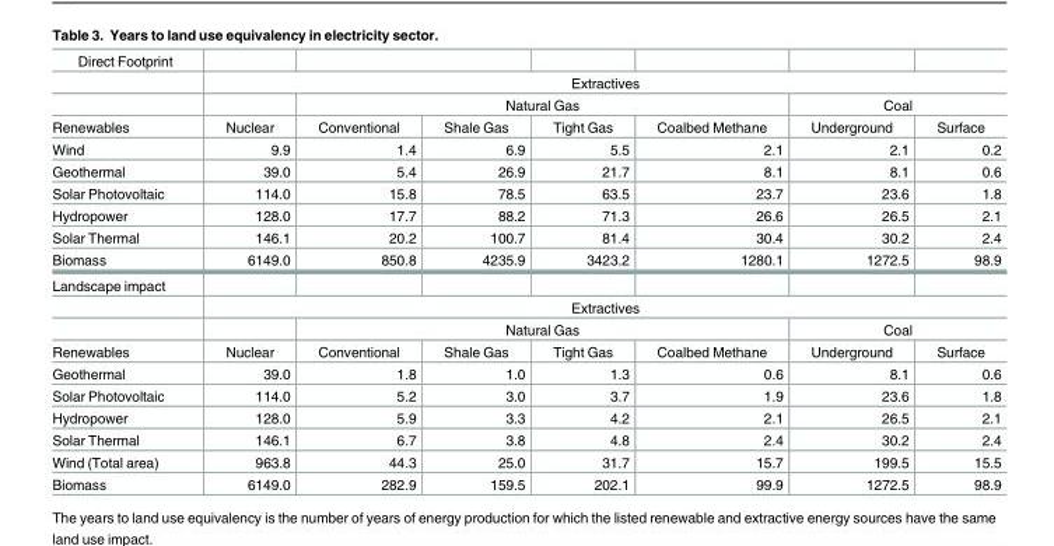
<table><tbody><tr><td colspan="8">Direct Footprint</td></tr><tr><td></td><td colspan="7">Extractives</td></tr><tr><td></td><td></td><td colspan="4">Natural Gas</td><td colspan="2">Coal</td></tr><tr><td>Renewables</td><td>Nuclear</td><td>Conventional</td><td>Shale Gas</td><td>Tight Gas</td><td>Coalbed Methane</td><td>Underground</td><td>Surface</td></tr><tr><td>Wind</td><td>9.9</td><td>1.4</td><td>6.9</td><td>5.5</td><td>2.1</td><td>2.1</td><td>0.2</td></tr><tr><td>Geothermal</td><td>39.0</td><td>5.4</td><td>26.9</td><td>21.7</td><td>8.1</td><td>8.1</td><td>0.6</td></tr><tr><td>Solar Photovoltaic</td><td>114.0</td><td>15.8</td><td>78.5</td><td>63.5</td><td>23.7</td><td>23.6</td><td>1.8</td></tr><tr><td>Hydropower</td><td>128.0</td><td>17.7</td><td>88.2</td><td>71.3</td><td>26.6</td><td>26.5</td><td>2.1</td></tr><tr><td>Solar Thermal</td><td>146.1</td><td>20.2</td><td>100.7</td><td>81.4</td><td>30.4</td><td>30.2</td><td>2.4</td></tr><tr><td>Biomass</td><td>6149.0</td><td>850.8</td><td>4235.9</td><td>3423.2</td><td>1280.1</td><td>1272.5</td><td>98.9</td></tr><tr><td colspan="8">Landscape impact</td></tr><tr><td></td><td colspan="7">Extractives</td></tr><tr><td></td><td></td><td colspan="4">Natural Gas</td><td colspan="2">Coal</td></tr><tr><td>Renewables</td><td>Nuclear</td><td>Conventional</td><td>Shale Gas</td><td>Tight Gas</td><td>Coalbed Methane</td><td>Underground</td><td>Surface</td></tr><tr><td>Geothermal</td><td>39.0</td><td>1.8</td><td>1.0</td><td>1.3</td><td>0.6</td><td>8.1</td><td>0.6</td></tr><tr><td>Solar Photovoltaic</td><td>114.0</td><td>5.2</td><td>3.0</td><td>3.7</td><td>1.9</td><td>23.6</td><td>1.8</td></tr><tr><td>Hydropower</td><td>128.0</td><td>5.9</td><td>3.3</td><td>4.2</td><td>2.1</td><td>26.5</td><td>2.1</td></tr><tr><td>Solar Thermal</td><td>146.1</td><td>6.7</td><td>3.8</td><td>4.8</td><td>2.4</td><td>30.2</td><td>2.4</td></tr><tr><td>Wind (Total area)</td><td>963.8</td><td>44.3</td><td>25.0</td><td>31.7</td><td>15.7</td><td>199.5</td><td>15.5</td></tr><tr><td>Biomass</td><td>6149.0</td><td>282.9</td><td>159.5</td><td>202.1</td><td>99.9</td><td>1272.5</td><td>98.9</td></tr></tbody></table>